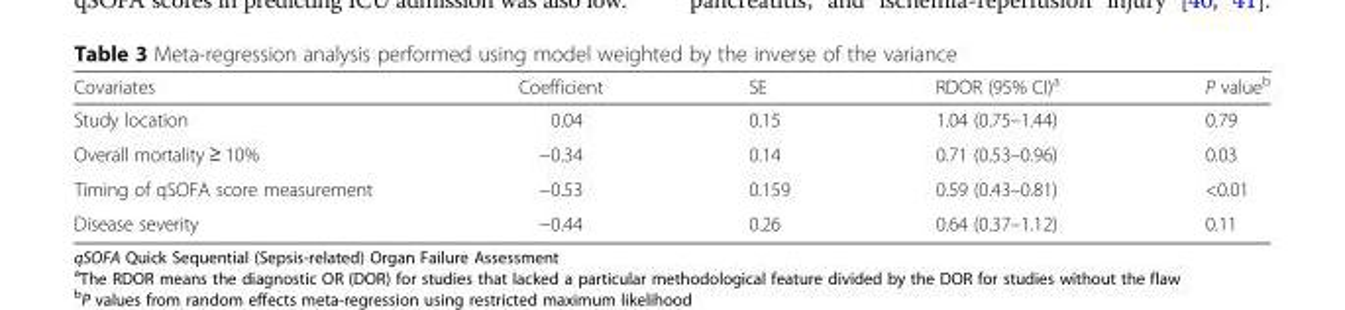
<table><thead><tr><td>Covariates</td><td>Coefficient</td><td>SE</td><td>RDOR (95% CI)<sup>a</sup></td><td>P value<sup>b</sup></td></tr></thead><tbody><tr><td>Study location</td><td>0.04</td><td>0.15</td><td>1.04 (0.75–1.44)</td><td>0.79</td></tr><tr><td>Overall mortality ≥ 10%</td><td>−0.34</td><td>0.14</td><td>0.71 (0.53–0.96)</td><td>0.03</td></tr><tr><td>Timing of qSOFA score measurement</td><td>−0.53</td><td>0.159</td><td>0.59 (0.43–0.81)</td><td>&lt;0.01</td></tr><tr><td>Disease severity</td><td>−0.44</td><td>0.26</td><td>0.64 (0.37–1.12)</td><td>0.11</td></tr></tbody></table>